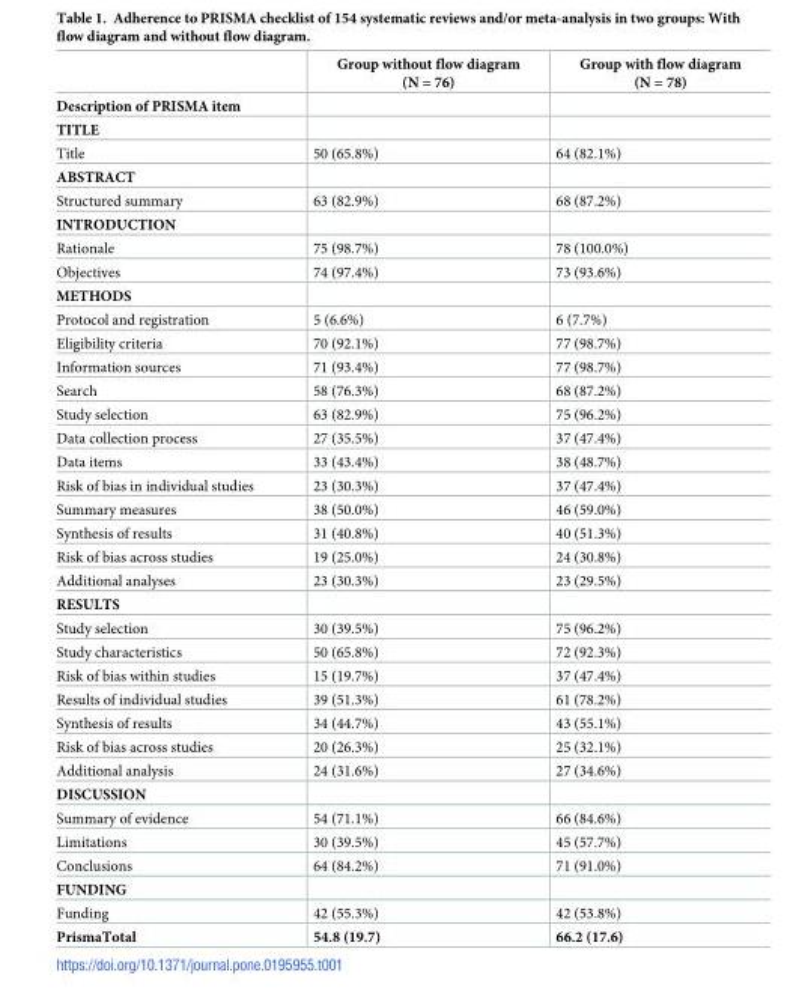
<table><thead><tr><td></td><td>Group without flow diagram (N = 76)</td><td>Group with flow diagram (N = 78)</td></tr></thead><tbody><tr><td colspan="3">Description of PRISMA item</td></tr><tr><td colspan="3">TITLE</td></tr><tr><td>Title</td><td>50 (65.8%)</td><td>64 (82.1%)</td></tr><tr><td colspan="3">ABSTRACT</td></tr><tr><td>Structured summary</td><td>63 (82.9%)</td><td>68 (87.2%)</td></tr><tr><td colspan="3">INTRODUCTION</td></tr><tr><td>Rationale</td><td>75 (98.7%)</td><td>78 (100.0%)</td></tr><tr><td>Objectives</td><td>74 (97.4%)</td><td>73 (93.6%)</td></tr><tr><td colspan="3">METHODS</td></tr><tr><td>Protocol and registration</td><td>5 (6.6%)</td><td>6 (7.7%)</td></tr><tr><td>Eligibility criteria</td><td>70 (92.1%)</td><td>77 (98.7%)</td></tr><tr><td>Information sources</td><td>71 (93.4%)</td><td>77 (98.7%)</td></tr><tr><td>Search</td><td>58 (76.3%)</td><td>68 (87.2%)</td></tr><tr><td>Study selection</td><td>63 (82.9%)</td><td>75 (96.2%)</td></tr><tr><td>Data collection process</td><td>27 (35.5%)</td><td>37 (47.4%)</td></tr><tr><td>Data items</td><td>33 (43.4%)</td><td>38 (48.7%)</td></tr><tr><td>Risk of bias in individual studies</td><td>23 (30.3%)</td><td>37 (47.4%)</td></tr><tr><td>Summary measures</td><td>38 (50.0%)</td><td>46 (59.0%)</td></tr><tr><td>Synthesis of results</td><td>31 (40.8%)</td><td>40 (51.3%)</td></tr><tr><td>Risk of bias across studies</td><td>19 (25.0%)</td><td>24 (30.8%)</td></tr><tr><td>Additional analyses</td><td>23 (30.3%)</td><td>23 (29.5%)</td></tr><tr><td colspan="3">RESULTS</td></tr><tr><td>Study selection</td><td>30 (39.5%)</td><td>75 (96.2%)</td></tr><tr><td>Study characteristics</td><td>50 (65.8%)</td><td>72 (92.3%)</td></tr><tr><td>Risk of bias within studies</td><td>15 (19.7%)</td><td>37 (47.4%)</td></tr><tr><td>Results of individual studies</td><td>39 (51.3%)</td><td>61 (78.2%)</td></tr><tr><td>Synthesis of results</td><td>34 (44.7%)</td><td>43 (55.1%)</td></tr><tr><td>Risk of bias across studies</td><td>20 (26.3%)</td><td>25 (32.1%)</td></tr><tr><td>Additional analysis</td><td>24 (31.6%)</td><td>27 (34.6%)</td></tr><tr><td colspan="3">DISCUSSION</td></tr><tr><td>Summary of evidence</td><td>54 (71.1%)</td><td>66 (84.6%)</td></tr><tr><td>Limitations</td><td>30 (39.5%)</td><td>45 (57.7%)</td></tr><tr><td>Conclusions</td><td>64 (84.2%)</td><td>71 (91.0%)</td></tr><tr><td colspan="3">FUNDING</td></tr><tr><td>Funding</td><td>42 (55.3%)</td><td>42 (53.8%)</td></tr><tr><td>PrismaTotal</td><td>54.8 (19.7)</td><td>66.2 (17.6)</td></tr></tbody></table>